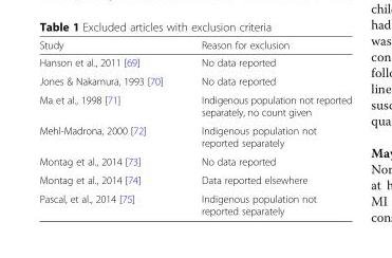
<table><thead><tr><td>Study</td><td>Reason for exclusion</td></tr></thead><tbody><tr><td>Hanson et al., 2011 [69]</td><td>No data reported</td></tr><tr><td>Jones &amp; Nakamura, 1993 [70]</td><td>No data reported</td></tr><tr><td>Ma et al., 1998 [71]</td><td>Indigenous population not reported separately, no count given</td></tr><tr><td>Mehl-Madrona, 2000 [72]</td><td>Indigenous population not reported separately</td></tr><tr><td>Montag et al., 2014 [73]</td><td>No data reported</td></tr><tr><td>Montag et al., 2014 [74]</td><td>Data reported elsewhere</td></tr><tr><td>Pascal, et al., 2014 [75]</td><td>Indigenous population not reported separately</td></tr></tbody></table>